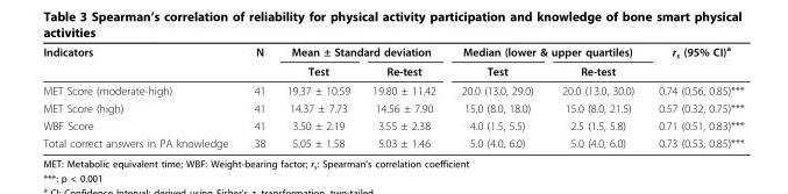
<table><tbody><tr><td rowspan="2">Indicators</td><td>N</td><td colspan="2">Mean ± Standard deviation</td><td colspan="2">Median (lower &amp; upper quartiles)</td><td>r<sub>s</sub> (95% CI)<sup>a</sup></td></tr><tr><td></td><td>Test</td><td>Re-test</td><td>Test</td><td>Re-test</td><td></td></tr><tr><td>MET Score (moderate-high)</td><td>41</td><td>19.37 ± 10.59</td><td>19.80 ± 11.42</td><td>20.0 (13.0, 29.0)</td><td>20.0 (13.0, 30.0)</td><td>0.74 (0.56, 0.85)***</td></tr><tr><td>MET Score (high)</td><td>41</td><td>14.37 ± 7.73</td><td>14.56 ± 7.90</td><td>15.0 (8.0, 18.0)</td><td>15.0 (8.0, 21.5)</td><td>0.57 (0.32, 0.75)***</td></tr><tr><td>WBF Score</td><td>41</td><td>3.50 ± 2.19</td><td>3.55 ± 2.38</td><td>4.0 (1.5, 5.5)</td><td>2.5 (1.5, 5.8)</td><td>0.71 (0.51, 0.83)***</td></tr><tr><td>Total correct answers in PA knowledge</td><td>38</td><td>5.05 ± 1.58</td><td>5.03 ± 1.46</td><td>5.0 (4.0, 6.0)</td><td>5.0 (4.0, 6.0)</td><td>0.73 (0.53, 0.85)***</td></tr></tbody></table>